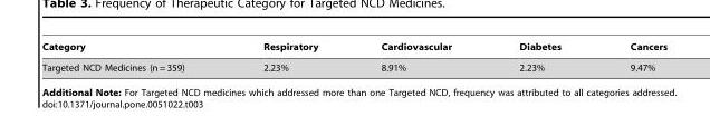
<table><thead><tr><td>Category</td><td>Respiratory</td><td>Cardiovascular</td><td>Diabetes</td><td>Cancers</td></tr></thead><tbody><tr><td>Targeted NCD Medicines (n = 359)</td><td>2.23%</td><td>8.91%</td><td>2.23%</td><td>9.47%</td></tr></tbody></table>